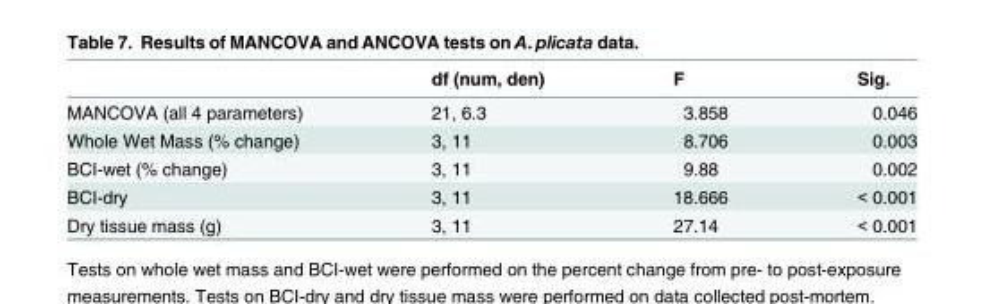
<table><thead><tr><td></td><td>df (num, den)</td><td>F</td><td>Sig.</td></tr></thead><tbody><tr><td>MANCOVA (all 4 parameters)</td><td>21, 6.3</td><td>3.858</td><td>0.046</td></tr><tr><td>Whole Wet Mass (% change)</td><td>3, 11</td><td>8.706</td><td>0.003</td></tr><tr><td>BCI-wet (% change)</td><td>3, 11</td><td>9.88</td><td>0.002</td></tr><tr><td>BCI-dry</td><td>3, 11</td><td>18.666</td><td>&lt; 0.001</td></tr><tr><td>Dry tissue mass (g)</td><td>3, 11</td><td>27.14</td><td>&lt; 0.001</td></tr></tbody></table>